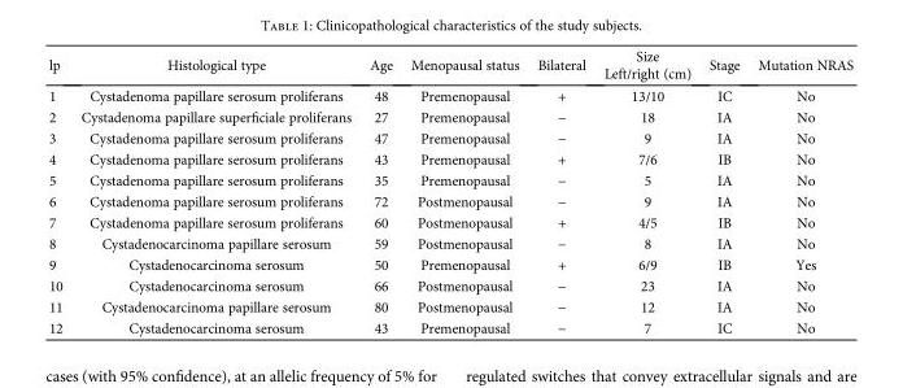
<table><thead><tr><td>lp</td><td>Histological type</td><td>Age</td><td>Menopausal status</td><td>Bilateral</td><td>Size Left/right (cm)</td><td>Stage</td><td>Mutation NRAS</td></tr></thead><tbody><tr><td>1</td><td>Cystadenoma papillare serosum proliferans</td><td>48</td><td>Premenopausal</td><td>+</td><td>13/10</td><td>IC</td><td>No</td></tr><tr><td>2</td><td>Cystadenoma papillare superficiale proliferans</td><td>27</td><td>Premenopausal</td><td>−</td><td>18</td><td>IA</td><td>No</td></tr><tr><td>3</td><td>Cystadenoma papillare serosum proliferans</td><td>47</td><td>Premenopausal</td><td>−</td><td>9</td><td>IA</td><td>No</td></tr><tr><td>4</td><td>Cystadenoma papillare serosum proliferans</td><td>43</td><td>Premenopausal</td><td>+</td><td>7/6</td><td>IB</td><td>No</td></tr><tr><td>5</td><td>Cystadenoma papillare serosum proliferans</td><td>35</td><td>Premenopausal</td><td>−</td><td>5</td><td>IA</td><td>No</td></tr><tr><td>6</td><td>Cystadenoma papillare serosum proliferans</td><td>72</td><td>Postmenopausal</td><td>−</td><td>9</td><td>IA</td><td>No</td></tr><tr><td>7</td><td>Cystadenoma papillare serosum proliferans</td><td>60</td><td>Postmenopausal</td><td>+</td><td>4/5</td><td>IB</td><td>No</td></tr><tr><td>8</td><td>Cystadenocarcinoma papillare serosum</td><td>59</td><td>Postmenopausal</td><td>−</td><td>8</td><td>IA</td><td>No</td></tr><tr><td>9</td><td>Cystadenocarcinoma serosum</td><td>50</td><td>Premenopausal</td><td>+</td><td>6/9</td><td>IB</td><td>Yes</td></tr><tr><td>10</td><td>Cystadenocarcinoma serosum</td><td>66</td><td>Postmenopausal</td><td>−</td><td>23</td><td>IA</td><td>No</td></tr><tr><td>11</td><td>Cystadenocarcinoma papillare serosum</td><td>80</td><td>Postmenopausal</td><td>−</td><td>12</td><td>IA</td><td>No</td></tr><tr><td>12</td><td>Cystadenocarcinoma serosum</td><td>43</td><td>Premenopausal</td><td>−</td><td>7</td><td>IC</td><td>No</td></tr></tbody></table>